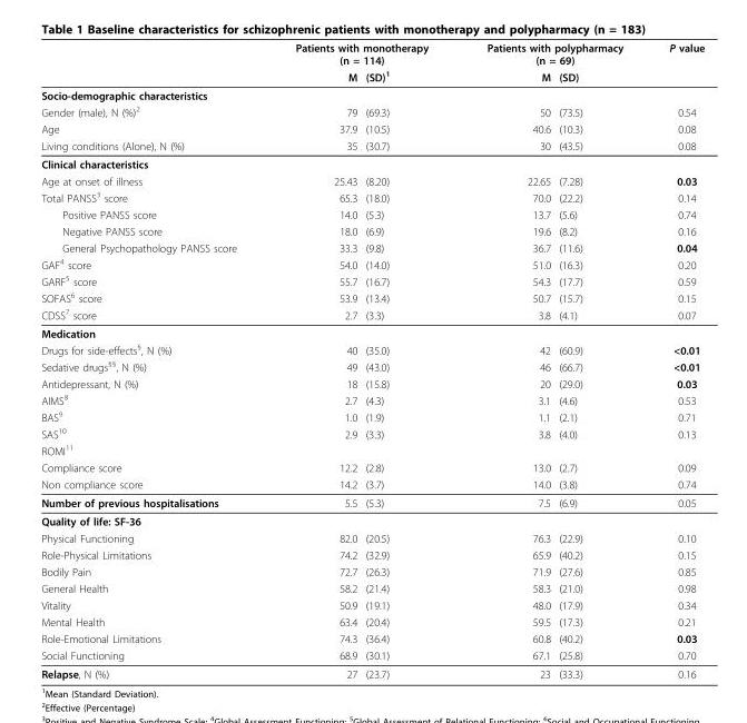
<table><thead><tr><td rowspan="2"></td><td colspan="2">Patients with monotherapy (n = 114)</td><td colspan="2">Patients with polypharmacy (n = 69)</td><td rowspan="2">P value</td></tr><tr><td>M</td><td>(SD)<sup>1</sup></td><td>M</td><td>(SD)</td></tr></thead><tbody><tr><td colspan="6">Socio-demographic characteristics</td></tr><tr><td>Gender (male), N (%)<sup>2</sup></td><td>79</td><td>(69.3)</td><td>50</td><td>(73.5)</td><td>0.54</td></tr><tr><td>Age</td><td>37.9</td><td>(10.5)</td><td>40.6</td><td>(10.3)</td><td>0.08</td></tr><tr><td>Living conditions (Alone), N (%)</td><td>35</td><td>(30.7)</td><td>30</td><td>(43.5)</td><td>0.08</td></tr><tr><td colspan="6">Clinical characteristics</td></tr><tr><td>Age at onset of illness</td><td>25.43</td><td>(8.20)</td><td>22.65</td><td>(7.28)</td><td>0.03</td></tr><tr><td>Total PANSS<sup>3</sup> score</td><td>65.3</td><td>(18.0)</td><td>70.0</td><td>(22.2)</td><td>0.14</td></tr><tr><td>Positive PANSS score</td><td>14.0</td><td>(5.3)</td><td>13.7</td><td>(5.6)</td><td>0.74</td></tr><tr><td>Negative PANSS score</td><td>18.0</td><td>(6.9)</td><td>19.6</td><td>(8.2)</td><td>0.16</td></tr><tr><td>General Psychopathology PANSS score</td><td>33.3</td><td>(9.8)</td><td>36.7</td><td>(11.6)</td><td>0.04</td></tr><tr><td>GAF<sup>4</sup> score</td><td>54.0</td><td>(14.0)</td><td>51.0</td><td>(16.3)</td><td>0.20</td></tr><tr><td>GARF<sup>5</sup> score</td><td>55.7</td><td>(16.7)</td><td>54.3</td><td>(17.7)</td><td>0.59</td></tr><tr><td>SOFAS<sup>6</sup> score</td><td>53.9</td><td>(13.4)</td><td>50.7</td><td>(15.7)</td><td>0.15</td></tr><tr><td>CDSS<sup>7</sup> score</td><td>2.7</td><td>(3.3)</td><td>3.8</td><td>(4.1)</td><td>0.07</td></tr><tr><td colspan="6">Medication</td></tr><tr><td>Drugs for side-effects<sup>§</sup>, N (%)</td><td>40</td><td>(35.0)</td><td>42</td><td>(60.9)</td><td>&lt;0.01</td></tr><tr><td>Sedative drugs<sup>§§</sup>, N (%)</td><td>49</td><td>(43.0)</td><td>46</td><td>(66.7)</td><td>&lt;0.01</td></tr><tr><td>Antidepressant, N (%)</td><td>18</td><td>(15.8)</td><td>20</td><td>(29.0)</td><td>0.03</td></tr><tr><td>AIMS<sup>8</sup></td><td>2.7</td><td>(4.3)</td><td>3.1</td><td>(4.6)</td><td>0.53</td></tr><tr><td>BAS<sup>9</sup></td><td>1.0</td><td>(1.9)</td><td>1.1</td><td>(2.1)</td><td>0.71</td></tr><tr><td>SAS<sup>10</sup></td><td>2.9</td><td>(3.3)</td><td>3.8</td><td>(4.0)</td><td>0.13</td></tr><tr><td colspan="6">ROMI<sup>11</sup></td></tr><tr><td>Compliance score</td><td>12.2</td><td>(2.8)</td><td>13.0</td><td>(2.7)</td><td>0.09</td></tr><tr><td>Non compliance score</td><td>14.2</td><td>(3.7)</td><td>14.0</td><td>(3.8)</td><td>0.74</td></tr><tr><td>Number of previous hospitalisations</td><td>5.5</td><td>(5.3)</td><td>7.5</td><td>(6.9)</td><td>0.05</td></tr><tr><td colspan="6">Quality of life: SF-36</td></tr><tr><td>Physical Functioning</td><td>82.0</td><td>(20.5)</td><td>76.3</td><td>(22.9)</td><td>0.10</td></tr><tr><td>Role-Physical Limitations</td><td>74.2</td><td>(32.9)</td><td>65.9</td><td>(40.2)</td><td>0.15</td></tr><tr><td>Bodily Pain</td><td>72.7</td><td>(26.3)</td><td>71.9</td><td>(27.6)</td><td>0.85</td></tr><tr><td>General Health</td><td>58.2</td><td>(21.4)</td><td>58.3</td><td>(21.0)</td><td>0.98</td></tr><tr><td>Vitality</td><td>50.9</td><td>(19.1)</td><td>48.0</td><td>(17.9)</td><td>0.34</td></tr><tr><td>Mental Health</td><td>63.4</td><td>(20.4)</td><td>59.5</td><td>(17.3)</td><td>0.21</td></tr><tr><td>Role-Emotional Limitations</td><td>74.3</td><td>(36.4)</td><td>60.8</td><td>(40.2)</td><td>0.03</td></tr><tr><td>Social Functioning</td><td>68.9</td><td>(30.1)</td><td>67.1</td><td>(25.8)</td><td>0.70</td></tr><tr><td>Relapse, N (%)</td><td>27</td><td>(23.7)</td><td>23</td><td>(33.3)</td><td>0.16</td></tr></tbody></table>